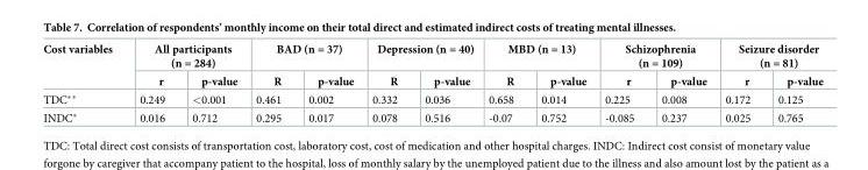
<table><thead><tr><td rowspan="2">Cost variables</td><td colspan="2">All participants (n = 284)</td><td colspan="2">BAD (n = 37)</td><td colspan="2">Depression (n = 40)</td><td colspan="2">MBD (n = 13)</td><td colspan="2">Schizophrenia (n = 109)</td><td colspan="2">Seizure disorder (n = 81)</td></tr><tr><td>r</td><td>p-value</td><td>R</td><td>p-value</td><td>R</td><td>p-value</td><td>R</td><td>p-value</td><td>r</td><td>p-value</td><td>r</td><td>p-value</td></tr></thead><tbody><tr><td>TDC**</td><td>0.249</td><td>&lt;0.001</td><td>0.461</td><td>0.002</td><td>0.332</td><td>0.036</td><td>0.658</td><td>0.014</td><td>0.225</td><td>0.008</td><td>0.172</td><td>0.125</td></tr><tr><td>INDC*</td><td>0.016</td><td>0.712</td><td>0.295</td><td>0.017</td><td>0.078</td><td>0.516</td><td>-0.07</td><td>0.752</td><td>-0.085</td><td>0.237</td><td>0.025</td><td>0.765</td></tr></tbody></table>